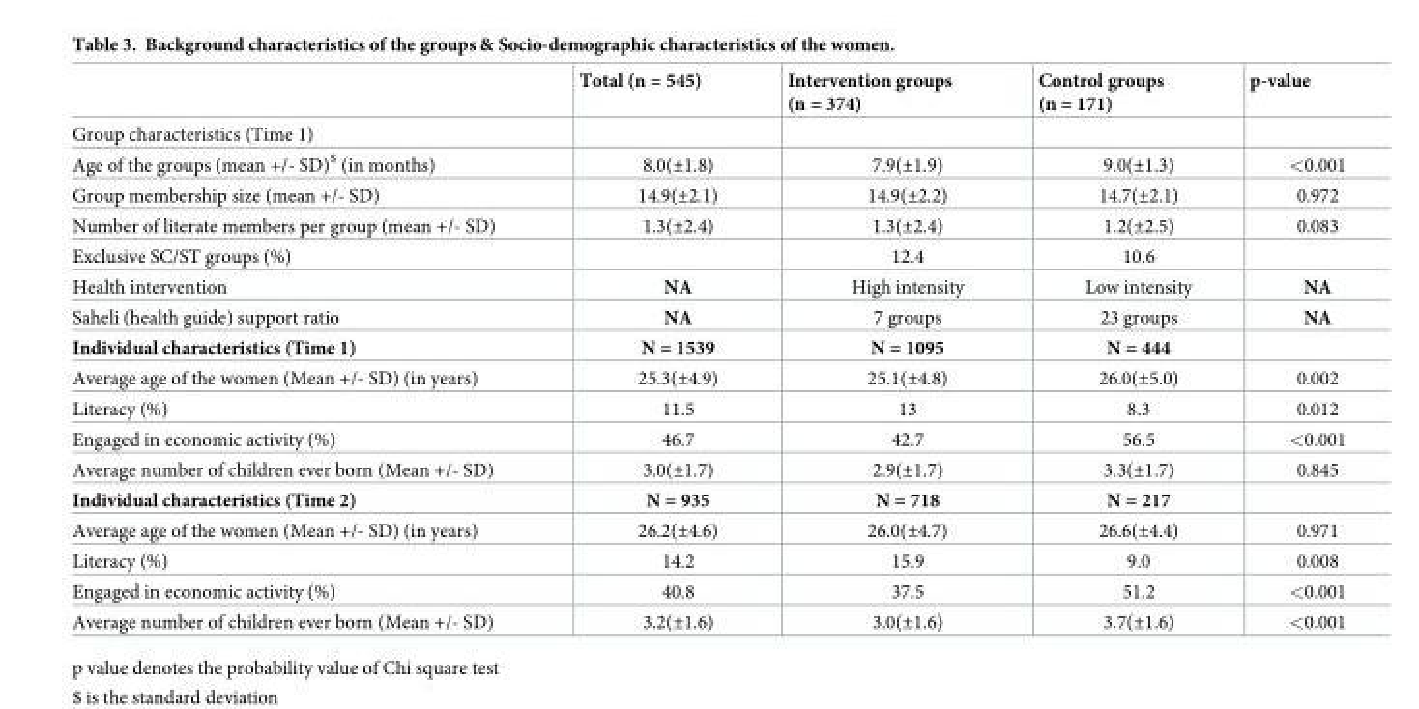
<table><thead><tr><td></td><td>Total (n = 545)</td><td>Intervention groups (n = 374)</td><td>Control groups (n = 171)</td><td>p-value</td></tr></thead><tbody><tr><td colspan="5">Group characteristics (Time 1)</td></tr><tr><td>Age of the groups (mean +/- SD)<sup>$</sup> (in months)</td><td>8.0(±1.8)</td><td>7.9(±1.9)</td><td>9.0(±1.3)</td><td>&lt;0.001</td></tr><tr><td>Group membership size (mean +/- SD)</td><td>14.9(±2.1)</td><td>14.9(±2.2)</td><td>14.7(±2.1)</td><td>0.972</td></tr><tr><td>Number of literate members per group (mean +/- SD)</td><td>1.3(±2.4)</td><td>1.3(±2.4)</td><td>1.2(±2.5)</td><td>0.083</td></tr><tr><td>Exclusive SC/ST groups (%)</td><td></td><td>12.4</td><td>10.6</td><td></td></tr><tr><td>Health intervention</td><td>NA</td><td>High intensity</td><td>Low intensity</td><td>NA</td></tr><tr><td>Saheli (health guide) support ratio</td><td>NA</td><td>7 groups</td><td>23 groups</td><td>NA</td></tr><tr><td>Individual characteristics (Time 1)</td><td>N = 1539</td><td>N = 1095</td><td>N = 444</td><td></td></tr><tr><td>Average age of the women (Mean +/- SD) (in years)</td><td>25.3(±4.9)</td><td>25.1(±4.8)</td><td>26.0(±5.0)</td><td>0.002</td></tr><tr><td>Literacy (%)</td><td>11.5</td><td>13</td><td>8.3</td><td>0.012</td></tr><tr><td>Engaged in economic activity (%)</td><td>46.7</td><td>42.7</td><td>56.5</td><td>&lt;0.001</td></tr><tr><td>Average number of children ever born (Mean +/- SD)</td><td>3.0(±1.7)</td><td>2.9(±1.7)</td><td>3.3(±1.7)</td><td>0.845</td></tr><tr><td>Individual characteristics (Time 2)</td><td>N = 935</td><td>N = 718</td><td>N = 217</td><td></td></tr><tr><td>Average age of the women (Mean +/- SD) (in years)</td><td>26.2(±4.6)</td><td>26.0(±4.7)</td><td>26.6(±4.4)</td><td>0.971</td></tr><tr><td>Literacy (%)</td><td>14.2</td><td>15.9</td><td>9.0</td><td>0.008</td></tr><tr><td>Engaged in economic activity (%)</td><td>40.8</td><td>37.5</td><td>51.2</td><td>&lt;0.001</td></tr><tr><td>Average number of children ever born (Mean +/- SD)</td><td>3.2(±1.6)</td><td>3.0(±1.6)</td><td>3.7(±1.6)</td><td>&lt;0.001</td></tr></tbody></table>